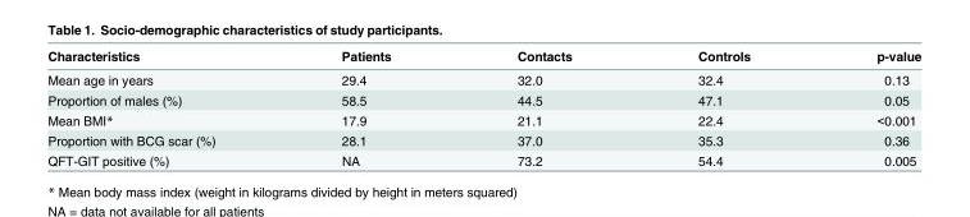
<table><thead><tr><td>Characteristics</td><td>Patients</td><td>Contacts</td><td>Controls</td><td>p-value</td></tr></thead><tbody><tr><td>Mean age in years</td><td>29.4</td><td>32.0</td><td>32.4</td><td>0.13</td></tr><tr><td>Proportion of males (%)</td><td>58.5</td><td>44.5</td><td>47.1</td><td>0.05</td></tr><tr><td>Mean BMI*</td><td>17.9</td><td>21.1</td><td>22.4</td><td>&lt;0.001</td></tr><tr><td>Proportion with BCG scar (%)</td><td>28.1</td><td>37.0</td><td>35.3</td><td>0.36</td></tr><tr><td>QFT-GIT positive (%)</td><td>NA</td><td>73.2</td><td>54.4</td><td>0.005</td></tr></tbody></table>